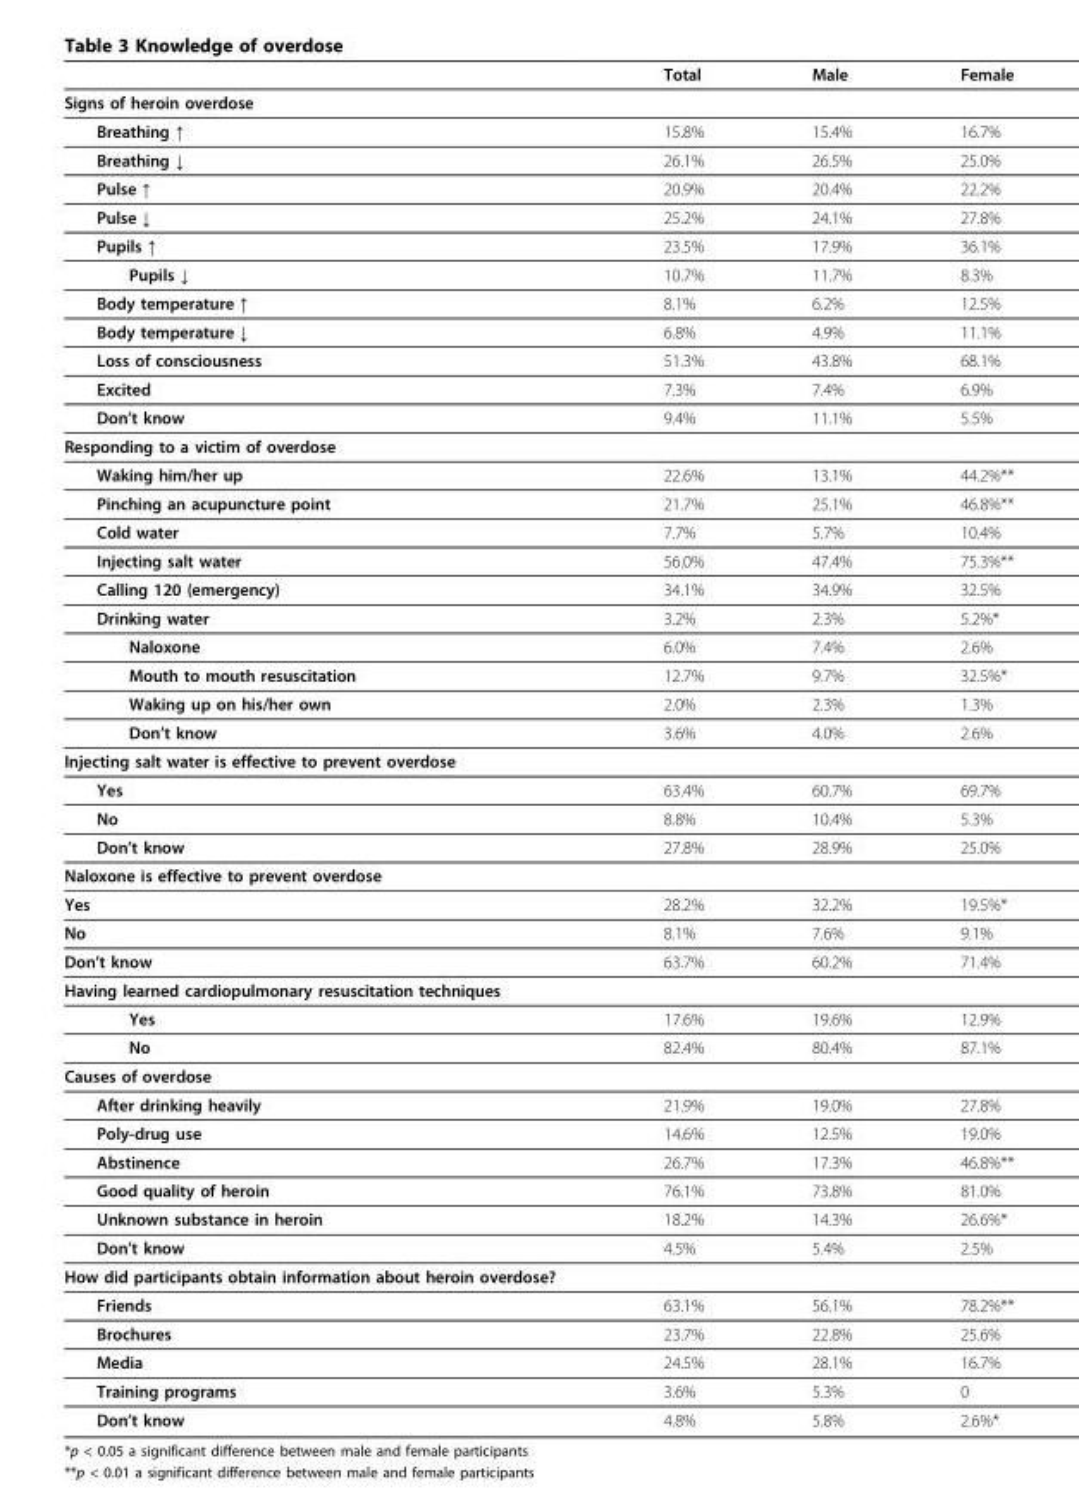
<table><thead><tr><td></td><td>Total</td><td>Male</td><td>Female</td></tr></thead><tbody><tr><td colspan="4">Signs of heroin overdose</td></tr><tr><td>Breathing ↑</td><td>15.8%</td><td>15.4%</td><td>16.7%</td></tr><tr><td>Breathing ↓</td><td>26.1%</td><td>26.5%</td><td>25.0%</td></tr><tr><td>Pulse ↑</td><td>20.9%</td><td>20.4%</td><td>22.2%</td></tr><tr><td>Pulse ↓</td><td>25.2%</td><td>24.1%</td><td>27.8%</td></tr><tr><td>Pupils ↑</td><td>23.5%</td><td>17.9%</td><td>36.1%</td></tr><tr><td>Pupils ↓</td><td>10.7%</td><td>11.7%</td><td>8.3%</td></tr><tr><td>Body temperature ↑</td><td>8.1%</td><td>6.2%</td><td>12.5%</td></tr><tr><td>Body temperature ↓</td><td>6.8%</td><td>4.9%</td><td>11.1%</td></tr><tr><td>Loss of consciousness</td><td>51.3%</td><td>43.8%</td><td>68.1%</td></tr><tr><td>Excited</td><td>7.3%</td><td>7.4%</td><td>6.9%</td></tr><tr><td>Don’t know</td><td>9.4%</td><td>11.1%</td><td>5.5%</td></tr><tr><td colspan="4">Responding to a victim of overdose</td></tr><tr><td>Waking him/her up</td><td>22.6%</td><td>13.1%</td><td>44.2%**</td></tr><tr><td>Pinching an acupuncture point</td><td>21.7%</td><td>25.1%</td><td>46.8%**</td></tr><tr><td>Cold water</td><td>7.7%</td><td>5.7%</td><td>10.4%</td></tr><tr><td>Injecting salt water</td><td>56.0%</td><td>47.4%</td><td>75.3%**</td></tr><tr><td>Calling 120 (emergency)</td><td>34.1%</td><td>34.9%</td><td>32.5%</td></tr><tr><td>Drinking water</td><td>3.2%</td><td>2.3%</td><td>5.2%*</td></tr><tr><td>Naloxone</td><td>6.0%</td><td>7.4%</td><td>2.6%</td></tr><tr><td>Mouth to mouth resuscitation</td><td>12.7%</td><td>9.7%</td><td>32.5%*</td></tr><tr><td>Waking up on his/her own</td><td>2.0%</td><td>2.3%</td><td>1.3%</td></tr><tr><td>Don’t know</td><td>3.6%</td><td>4.0%</td><td>2.6%</td></tr><tr><td colspan="4">Injecting salt water is effective to prevent overdose</td></tr><tr><td>Yes</td><td>63.4%</td><td>60.7%</td><td>69.7%</td></tr><tr><td>No</td><td>8.8%</td><td>10.4%</td><td>5.3%</td></tr><tr><td>Don’t know</td><td>27.8%</td><td>28.9%</td><td>25.0%</td></tr><tr><td colspan="4">Naloxone is effective to prevent overdose</td></tr><tr><td>Yes</td><td>28.2%</td><td>32.2%</td><td>19.5%*</td></tr><tr><td>No</td><td>8.1%</td><td>7.6%</td><td>9.1%</td></tr><tr><td>Don’t know</td><td>63.7%</td><td>60.2%</td><td>71.4%</td></tr><tr><td colspan="4">Having learned cardiopulmonary resuscitation techniques</td></tr><tr><td>Yes</td><td>17.6%</td><td>19.6%</td><td>12.9%</td></tr><tr><td>No</td><td>82.4%</td><td>80.4%</td><td>87.1%</td></tr><tr><td colspan="4">Causes of overdose</td></tr><tr><td>After drinking heavily</td><td>21.9%</td><td>19.0%</td><td>27.8%</td></tr><tr><td>Poly-drug use</td><td>14.6%</td><td>12.5%</td><td>19.0%</td></tr><tr><td>Abstinence</td><td>26.7%</td><td>17.3%</td><td>46.8%**</td></tr><tr><td>Good quality of heroin</td><td>76.1%</td><td>73.8%</td><td>81.0%</td></tr><tr><td>Unknown substance in heroin</td><td>18.2%</td><td>14.3%</td><td>26.6%*</td></tr><tr><td>Don’t know</td><td>4.5%</td><td>5.4%</td><td>2.5%</td></tr><tr><td colspan="4">How did participants obtain information about heroin overdose?</td></tr><tr><td>Friends</td><td>63.1%</td><td>56.1%</td><td>78.2%**</td></tr><tr><td>Brochures</td><td>23.7%</td><td>22.8%</td><td>25.6%</td></tr><tr><td>Media</td><td>24.5%</td><td>28.1%</td><td>16.7%</td></tr><tr><td>Training programs</td><td>3.6%</td><td>5.3%</td><td>0</td></tr><tr><td>Don’t know</td><td>4.8%</td><td>5.8%</td><td>2.6%*</td></tr></tbody></table>